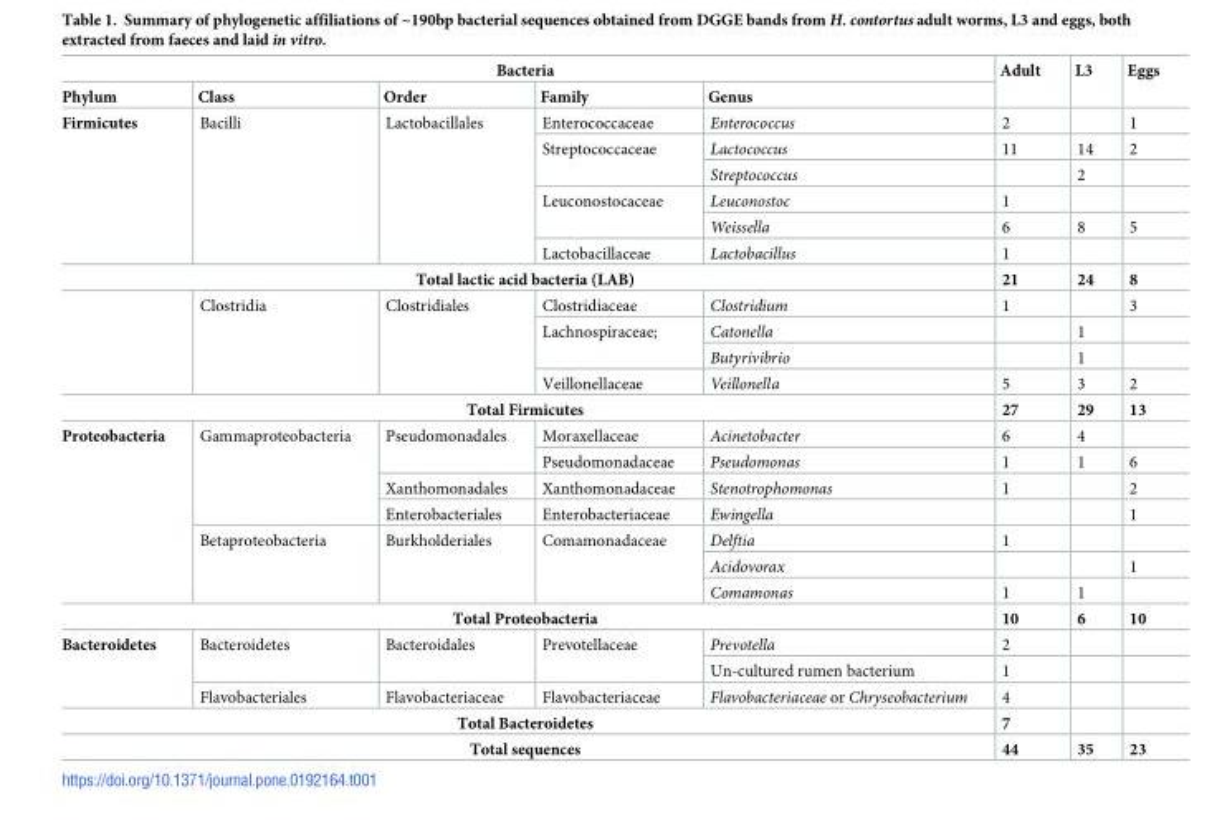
<table><thead><tr><td colspan="5">Bacteria</td><td rowspan="2">Adult</td><td rowspan="2">L3</td><td rowspan="2">Eggs</td></tr><tr><td>Phylum</td><td>Class</td><td>Order</td><td>Family</td><td>Genus</td></tr></thead><tbody><tr><td rowspan="6">Firmicutes</td><td rowspan="6">Bacilli</td><td rowspan="6">Lactobacillales</td><td>Enterococcaceae</td><td>Enterococcus</td><td>2</td><td></td><td>1</td></tr><tr><td rowspan="2">Streptococcaceae</td><td>Lactococcus</td><td>11</td><td>14</td><td>2</td></tr><tr><td>Streptococcus</td><td></td><td>2</td><td></td></tr><tr><td rowspan="2">Leuconostocaceae</td><td>Leuconostoc</td><td>1</td><td></td><td></td></tr><tr><td>Weissella</td><td>6</td><td>8</td><td>5</td></tr><tr><td>Lactobacillaceae</td><td>Lactobacillus</td><td>1</td><td></td><td></td></tr><tr><td colspan="5">Total lactic acid bacteria (LAB)</td><td>21</td><td>24</td><td>8</td></tr><tr><td rowspan="4"></td><td rowspan="4">Clostridia</td><td rowspan="4">Clostridiales</td><td>Clostridiaceae</td><td>Clostridium</td><td>1</td><td></td><td>3</td></tr><tr><td rowspan="2">Lachnospiraceae;</td><td>Catonella</td><td></td><td>1</td><td></td></tr><tr><td>Butyrivibrio</td><td></td><td>1</td><td></td></tr><tr><td>Veillonellaceae</td><td>Veillonella</td><td>5</td><td>3</td><td>2</td></tr><tr><td colspan="5">Total Firmicutes</td><td>27</td><td>29</td><td>13</td></tr><tr><td rowspan="7">Proteobacteria</td><td rowspan="4">Gammaproteobacteria</td><td rowspan="2">Pseudomonadales</td><td>Moraxellaceae</td><td>Acinetobacter</td><td>6</td><td>4</td><td></td></tr><tr><td>Pseudomonadaceae</td><td>Pseudomonas</td><td>1</td><td>1</td><td>6</td></tr><tr><td>Xanthomonadales</td><td>Xanthomonadaceae</td><td>Stenotrophomonas</td><td>1</td><td></td><td>2</td></tr><tr><td>Enterobacteriales</td><td>Enterobacteriaceae</td><td>Ewingella</td><td></td><td></td><td>1</td></tr><tr><td rowspan="3">Betaproteobacteria</td><td rowspan="3">Burkholderiales</td><td rowspan="3">Comamonadaceae</td><td>Delftia</td><td>1</td><td></td><td></td></tr><tr><td>Acidovorax</td><td></td><td></td><td>1</td></tr><tr><td>Comamonas</td><td>1</td><td>1</td><td></td></tr><tr><td colspan="5">Total Proteobacteria</td><td>10</td><td>6</td><td>10</td></tr><tr><td rowspan="3">Bacteroidetes</td><td rowspan="2">Bacteroidetes</td><td rowspan="2">Bacteroidales</td><td rowspan="2">Prevotellaceae</td><td>Prevotella</td><td>2</td><td></td><td></td></tr><tr><td>Un-cultured rumen bacterium</td><td>1</td><td></td><td></td></tr><tr><td>Flavobacteriales</td><td>Flavobacteriaceae</td><td>Flavobacteriaceae</td><td>Flavobacteriaceae or Chryseobacterium</td><td>4</td><td></td><td></td></tr><tr><td colspan="5">Total Bacteroidetes</td><td>7</td><td></td><td></td></tr><tr><td colspan="5">Total sequences</td><td>44</td><td>35</td><td>23</td></tr></tbody></table>